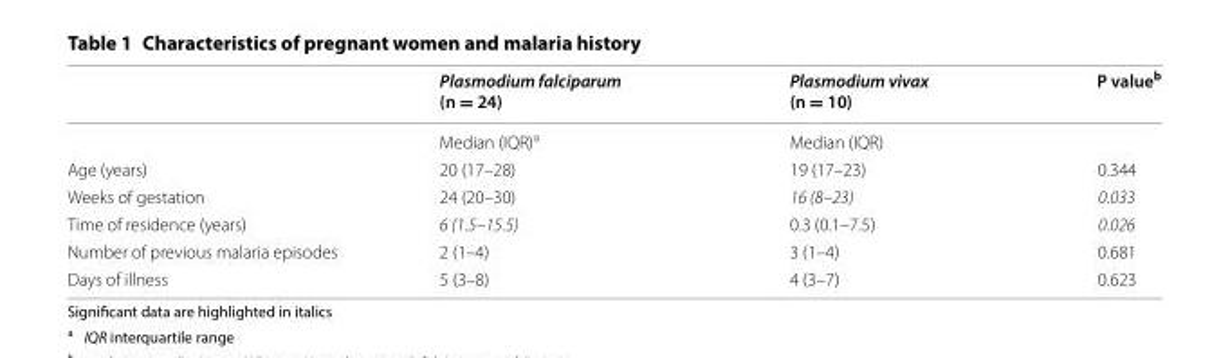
<table><thead><tr><td></td><td>Plasmodium falciparum (n = 24)</td><td>Plasmodium vivax (n = 10)</td><td>P value<sup>b</sup></td></tr></thead><tbody><tr><td></td><td>Median (IQR)<sup>a</sup></td><td>Median (IQR)</td><td></td></tr><tr><td>Age (years)</td><td>20 (17–28)</td><td>19 (17–23)</td><td>0.344</td></tr><tr><td>Weeks of gestation</td><td>24 (20–30)</td><td>16 (8–23)</td><td>0.033</td></tr><tr><td>Time of residence (years)</td><td>6 (1.5–15.5)</td><td>0.3 (0.1–7.5)</td><td>0.026</td></tr><tr><td>Number of previous malaria episodes</td><td>2 (1–4)</td><td>3 (1–4)</td><td>0.681</td></tr><tr><td>Days of illness</td><td>5 (3–8)</td><td>4 (3–7)</td><td>0.623</td></tr></tbody></table>